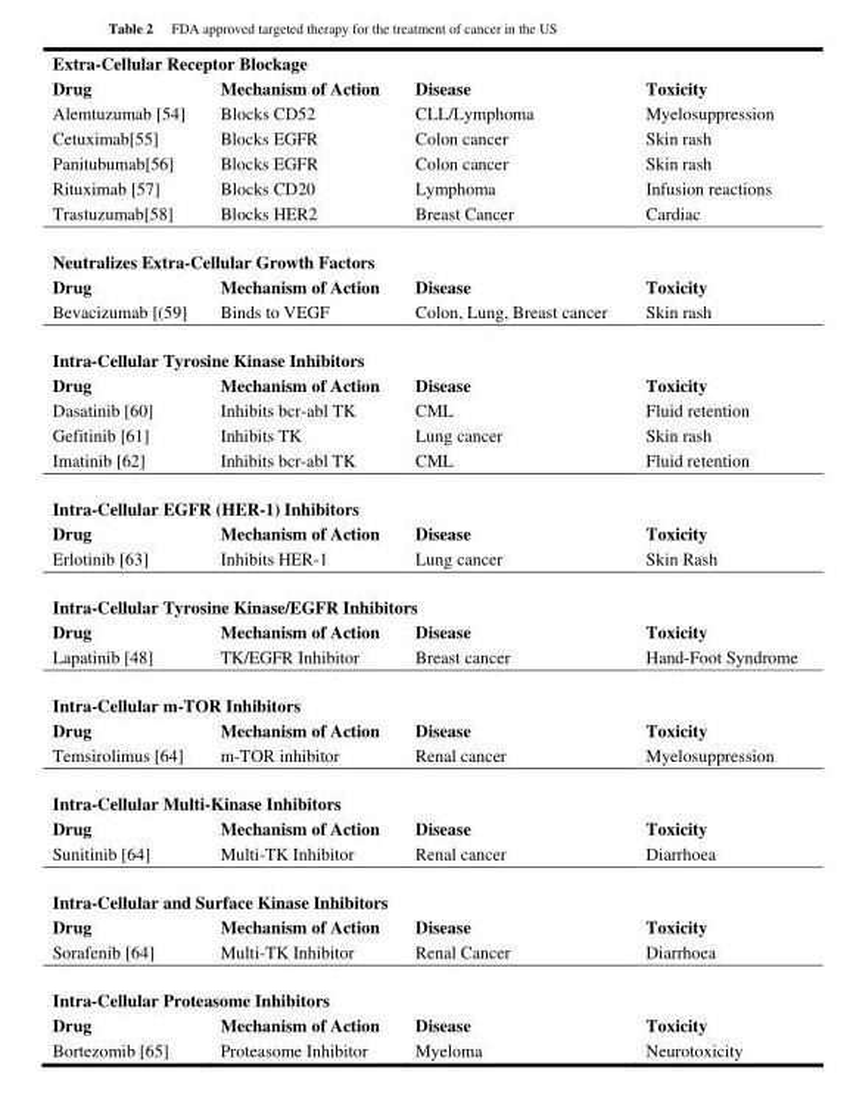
<table><thead><tr><td colspan="4">Extra-Cellular Receptor Blockage</td></tr><tr><td>Drug</td><td>Mechanism of Action</td><td>Disease</td><td>Toxicity</td></tr></thead><tbody><tr><td>Alemtuzumab [54]</td><td>Blocks CD52</td><td>CLL/Lymphoma</td><td>Myelosuppression</td></tr><tr><td>Cetuximab[55]</td><td>Blocks EGFR</td><td>Colon cancer</td><td>Skin rash</td></tr><tr><td>Panitubumab[56]</td><td>Blocks EGFR</td><td>Colon cancer</td><td>Skin rash</td></tr><tr><td>Rituximab [57]</td><td>Blocks CD20</td><td>Lymphoma</td><td>Infusion reactions</td></tr><tr><td>Trastuzumab[58]</td><td>Blocks HER2</td><td>Breast Cancer</td><td>Cardiac</td></tr><tr><td colspan="4">Neutralizes Extra-Cellular Growth Factors</td></tr><tr><td>Drug</td><td>Mechanism of Action</td><td>Disease</td><td>Toxicity</td></tr><tr><td>Bevacizumab [(59]</td><td>Binds to VEGF</td><td>Colon, Lung, Breast cancer</td><td>Skin rash</td></tr><tr><td colspan="4">Intra-Cellular Tyrosine Kinase Inhibitors</td></tr><tr><td>Drug</td><td>Mechanism of Action</td><td>Disease</td><td>Toxicity</td></tr><tr><td>Dasatinib [60]</td><td>Inhibits bcr-abl TK</td><td>CML</td><td>Fluid retention</td></tr><tr><td>Gefitinib [61]</td><td>Inhibits TK</td><td>Lung cancer</td><td>Skin rash</td></tr><tr><td>Imatinib [62]</td><td>Inhibits bcr-abl TK</td><td>CML</td><td>Fluid retention</td></tr><tr><td colspan="4">Intra-Cellular EGFR (HER-1) Inhibitors</td></tr><tr><td>Drug</td><td>Mechanism of Action</td><td>Disease</td><td>Toxicity</td></tr><tr><td>Erlotinib [63]</td><td>Inhibits HER-1</td><td>Lung cancer</td><td>Skin Rash</td></tr><tr><td colspan="4">Intra-Cellular Tyrosine Kinase/EGFR Inhibitors</td></tr><tr><td>Drug</td><td>Mechanism of Action</td><td>Disease</td><td>Toxicity</td></tr><tr><td>Lapatinib [48]</td><td>TK/EGFR Inhibitor</td><td>Breast cancer</td><td>Hand-Foot Syndrome</td></tr><tr><td colspan="4">Intra-Cellular m-TOR Inhibitors</td></tr><tr><td>Drug</td><td>Mechanism of Action</td><td>Disease</td><td>Toxicity</td></tr><tr><td>Temsirolimus [64]</td><td>m-TOR inhibitor</td><td>Renal cancer</td><td>Myelosuppression</td></tr><tr><td colspan="4">Intra-Cellular Multi-Kinase Inhibitors</td></tr><tr><td>Drug</td><td>Mechanism of Action</td><td>Disease</td><td>Toxicity</td></tr><tr><td>Sunitinib [64]</td><td>Multi-TK Inhibitor</td><td>Renal cancer</td><td>Diarrhoea</td></tr><tr><td colspan="4">Intra-Cellular and Surface Kinase Inhibitors</td></tr><tr><td>Drug</td><td>Mechanism of Action</td><td>Disease</td><td>Toxicity</td></tr><tr><td>Sorafenib [64]</td><td>Multi-TK Inhibitor</td><td>Renal Cancer</td><td>Diarrhoea</td></tr><tr><td colspan="4">Intra-Cellular Proteasome Inhibitors</td></tr><tr><td>Drug</td><td>Mechanism of Action</td><td>Disease</td><td>Toxicity</td></tr><tr><td>Bortezomib [65]</td><td>Proteasome Inhibitor</td><td>Myeloma</td><td>Neurotoxicity</td></tr></tbody></table>